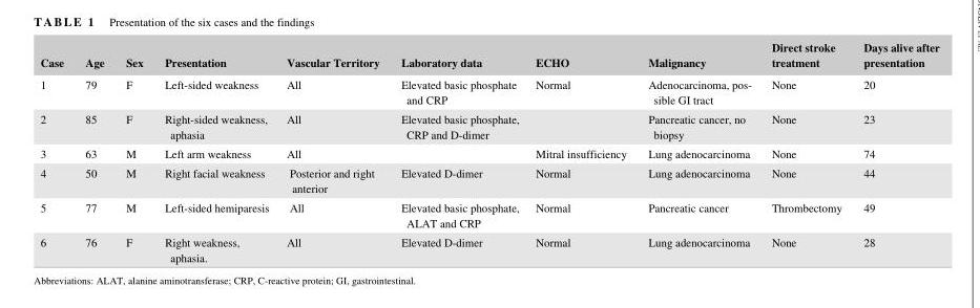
<table><thead><tr><td>Case</td><td>Age</td><td>Sex</td><td>Presentation</td><td>Vascular Territory</td><td>Laboratory data</td><td>ECHO</td><td>Malignancy</td><td>Direct stroke treatment</td><td>Days alive after presentation</td></tr></thead><tbody><tr><td>1</td><td>79</td><td>F</td><td>Left‐sided weakness</td><td>All</td><td>Elevated basic phosphate and CRP</td><td>Normal</td><td>Adenocarcinoma, pos- sible GI tract</td><td>None</td><td>20</td></tr><tr><td>2</td><td>85</td><td>F</td><td>Right‐sided weakness, aphasia</td><td>All</td><td>Elevated basic phosphate, CRP and D‐dimer</td><td></td><td>Pancreatic cancer, no biopsy</td><td>None</td><td>23</td></tr><tr><td>3</td><td>63</td><td>M</td><td>Left arm weakness</td><td>All</td><td></td><td>Mitral insufficiency</td><td>Lung adenocarcinoma</td><td>None</td><td>74</td></tr><tr><td>4</td><td>50</td><td>M</td><td>Right facial weakness</td><td>Posterior and right anterior</td><td>Elevated D‐dimer</td><td>Normal</td><td>Lung adenocarcinoma</td><td>None</td><td>44</td></tr><tr><td>5</td><td>77</td><td>M</td><td>Left‐sided hemiparesis</td><td>All</td><td>Elevated basic phosphate, ALAT and CRP</td><td>Normal</td><td>Pancreatic cancer</td><td>Thrombectomy</td><td>49</td></tr><tr><td>6</td><td>76</td><td>F</td><td>Right weakness, aphasia.</td><td>All</td><td>Elevated D‐dimer</td><td>Normal</td><td>Lung adenocarcinoma</td><td>None</td><td>28</td></tr></tbody></table>